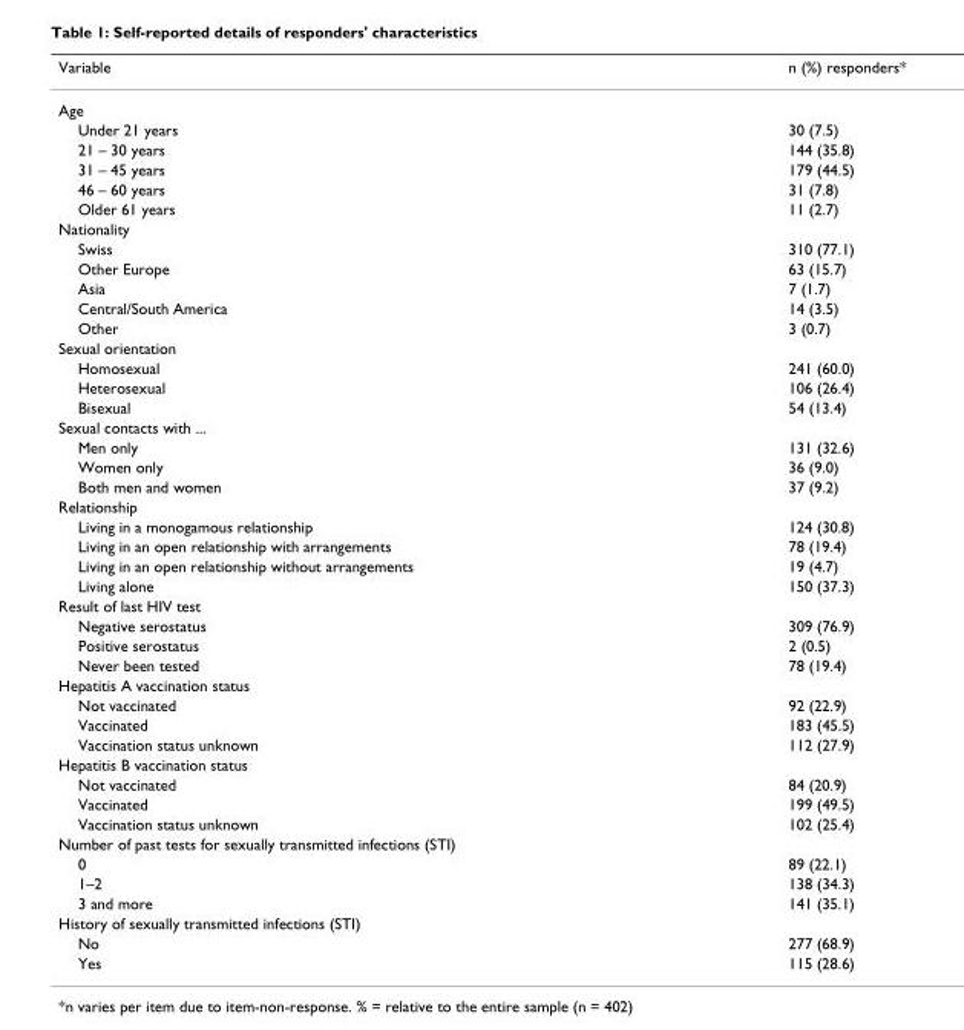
<table><thead><tr><td>Variable</td><td>n (%) responders*</td></tr></thead><tbody><tr><td colspan="2">Age</td></tr><tr><td>Under 21 years</td><td>30 (7.5)</td></tr><tr><td>21 – 30 years</td><td>144 (35.8)</td></tr><tr><td>31 – 45 years</td><td>179 (44.5)</td></tr><tr><td>46 – 60 years</td><td>31 (7.8)</td></tr><tr><td>Older 61 years</td><td>11 (2.7)</td></tr><tr><td colspan="2">Nationality</td></tr><tr><td>Swiss</td><td>310 (77.1)</td></tr><tr><td>Other Europe</td><td>63 (15.7)</td></tr><tr><td>Asia</td><td>7 (1.7)</td></tr><tr><td>Central/South America</td><td>14 (3.5)</td></tr><tr><td>Other</td><td>3 (0.7)</td></tr><tr><td colspan="2">Sexual orientation</td></tr><tr><td>Homosexual</td><td>241 (60.0)</td></tr><tr><td>Heterosexual</td><td>106 (26.4)</td></tr><tr><td>Bisexual</td><td>54 (13.4)</td></tr><tr><td colspan="2">Sexual contacts with ...</td></tr><tr><td>Men only</td><td>131 (32.6)</td></tr><tr><td>Women only</td><td>36 (9.0)</td></tr><tr><td>Both men and women</td><td>37 (9.2)</td></tr><tr><td colspan="2">Relationship</td></tr><tr><td>Living in a monogamous relationship</td><td>124 (30.8)</td></tr><tr><td>Living in an open relationship with arrangements</td><td>78 (19.4)</td></tr><tr><td>Living in an open relationship without arrangements</td><td>19 (4.7)</td></tr><tr><td>Living alone</td><td>150 (37.3)</td></tr><tr><td colspan="2">Result of last HIV test</td></tr><tr><td>Negative serostatus</td><td>309 (76.9)</td></tr><tr><td>Positive serostatus</td><td>2 (0.5)</td></tr><tr><td>Never been tested</td><td>78 (19.4)</td></tr><tr><td colspan="2">Hepatitis A vaccination status</td></tr><tr><td>Not vaccinated</td><td>92 (22.9)</td></tr><tr><td>Vaccinated</td><td>183 (45.5)</td></tr><tr><td>Vaccination status unknown</td><td>112 (27.9)</td></tr><tr><td colspan="2">Hepatitis B vaccination status</td></tr><tr><td>Not vaccinated</td><td>84 (20.9)</td></tr><tr><td>Vaccinated</td><td>199 (49.5)</td></tr><tr><td>Vaccination status unknown</td><td>102 (25.4)</td></tr><tr><td colspan="2">Number of past tests for sexually transmitted infections (STI)</td></tr><tr><td>0</td><td>89 (22.1)</td></tr><tr><td>1–2</td><td>138 (34.3)</td></tr><tr><td>3 and more</td><td>141 (35.1)</td></tr><tr><td colspan="2">History of sexually transmitted infections (STI)</td></tr><tr><td>No</td><td>277 (68.9)</td></tr><tr><td>Yes</td><td>115 (28.6)</td></tr></tbody></table>